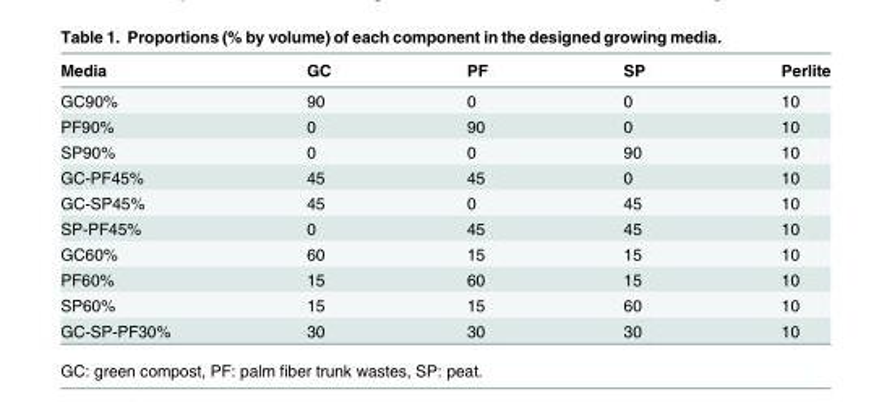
<table><thead><tr><td>Media</td><td>GC</td><td>PF</td><td>SP</td><td>Perlite</td></tr></thead><tbody><tr><td>GC90%</td><td>90</td><td>0</td><td>0</td><td>10</td></tr><tr><td>PF90%</td><td>0</td><td>90</td><td>0</td><td>10</td></tr><tr><td>SP90%</td><td>0</td><td>0</td><td>90</td><td>10</td></tr><tr><td>GC-PF45%</td><td>45</td><td>45</td><td>0</td><td>10</td></tr><tr><td>GC-SP45%</td><td>45</td><td>0</td><td>45</td><td>10</td></tr><tr><td>SP-PF45%</td><td>0</td><td>45</td><td>45</td><td>10</td></tr><tr><td>GC60%</td><td>60</td><td>15</td><td>15</td><td>10</td></tr><tr><td>PF60%</td><td>15</td><td>60</td><td>15</td><td>10</td></tr><tr><td>SP60%</td><td>15</td><td>15</td><td>60</td><td>10</td></tr><tr><td>GC-SP-PF30%</td><td>30</td><td>30</td><td>30</td><td>10</td></tr></tbody></table>